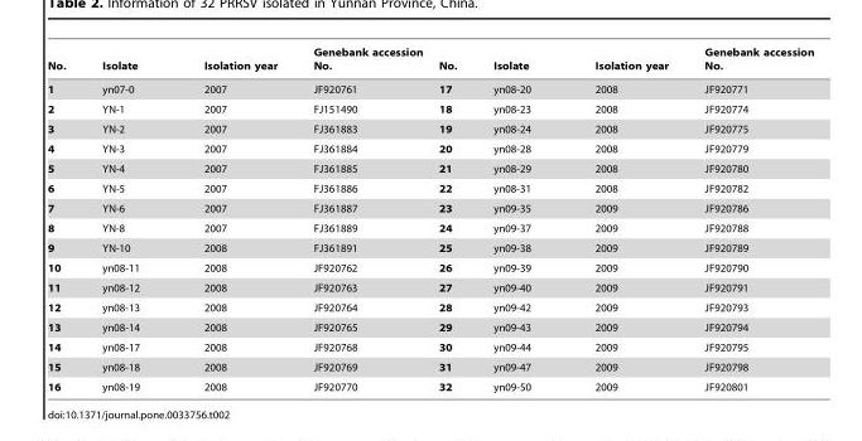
<table><thead><tr><td>No.</td><td>Isolate</td><td>Isolation year</td><td>Genebank accession No.</td><td>No.</td><td>Isolate</td><td>Isolation year</td><td>Genebank accession No.</td></tr></thead><tbody><tr><td>1</td><td>yn07-0</td><td>2007</td><td>JF920761</td><td>17</td><td>yn08-20</td><td>2008</td><td>JF920771</td></tr><tr><td>2</td><td>YN-1</td><td>2007</td><td>FJ151490</td><td>18</td><td>yn08-23</td><td>2008</td><td>JF920774</td></tr><tr><td>3</td><td>YN-2</td><td>2007</td><td>FJ361883</td><td>19</td><td>yn08-24</td><td>2008</td><td>JF920775</td></tr><tr><td>4</td><td>YN-3</td><td>2007</td><td>FJ361884</td><td>20</td><td>yn08-28</td><td>2008</td><td>JF920779</td></tr><tr><td>5</td><td>YN-4</td><td>2007</td><td>FJ361885</td><td>21</td><td>yn08-29</td><td>2008</td><td>JF920780</td></tr><tr><td>6</td><td>YN-5</td><td>2007</td><td>FJ361886</td><td>22</td><td>yn08-31</td><td>2008</td><td>JF920782</td></tr><tr><td>7</td><td>YN-6</td><td>2007</td><td>FJ361887</td><td>23</td><td>yn09-35</td><td>2009</td><td>JF920786</td></tr><tr><td>8</td><td>YN-8</td><td>2007</td><td>FJ361889</td><td>24</td><td>yn09-37</td><td>2009</td><td>JF920788</td></tr><tr><td>9</td><td>YN-10</td><td>2008</td><td>FJ361891</td><td>25</td><td>yn09-38</td><td>2009</td><td>JF920789</td></tr><tr><td>10</td><td>yn08-11</td><td>2008</td><td>JF920762</td><td>26</td><td>yn09-39</td><td>2009</td><td>JF920790</td></tr><tr><td>11</td><td>yn08-12</td><td>2008</td><td>JF920763</td><td>27</td><td>yn09-40</td><td>2009</td><td>JF920791</td></tr><tr><td>12</td><td>yn08-13</td><td>2008</td><td>JF920764</td><td>28</td><td>yn09-42</td><td>2009</td><td>JF920793</td></tr><tr><td>13</td><td>yn08-14</td><td>2008</td><td>JF920765</td><td>29</td><td>yn09-43</td><td>2009</td><td>JF920794</td></tr><tr><td>14</td><td>yn08-17</td><td>2008</td><td>JF920768</td><td>30</td><td>yn09-44</td><td>2009</td><td>JF920795</td></tr><tr><td>15</td><td>yn08-18</td><td>2008</td><td>JF920769</td><td>31</td><td>yn09-47</td><td>2009</td><td>JF920798</td></tr><tr><td>16</td><td>yn08-19</td><td>2008</td><td>JF920770</td><td>32</td><td>yn09-50</td><td>2009</td><td>JF920801</td></tr></tbody></table>